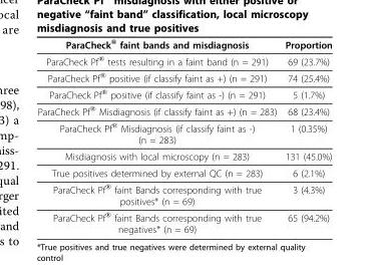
<table><thead><tr><td>ParaCheck<sup>®</sup> faint bands and misdiagnosis</td><td>Proportion</td></tr></thead><tbody><tr><td>ParaCheck Pf<sup>®</sup> tests resulting in a faint band (n = 291)</td><td>69 (23.7%)</td></tr><tr><td>ParaCheck Pf<sup>®</sup> positive (if classify faint as +) (n = 291)</td><td>74 (25.4%)</td></tr><tr><td>ParaCheck Pf<sup>®</sup> positive (if classify faint as -) (n = 291)</td><td>5 (1.7%)</td></tr><tr><td>ParaCheck Pf<sup>®</sup> Misdiagnosis (if classify faint as +) (n = 283)</td><td>68 (23.4%)</td></tr><tr><td>ParaCheck Pf<sup>®</sup> Misdiagnosis (if classify faint as -) (n = 283)</td><td>1 (0.35%)</td></tr><tr><td>Misdiagnosis with local microscopy (n = 283)</td><td>131 (45.0%)</td></tr><tr><td>True positives determined by external QC (n = 283)</td><td>6 (2.1%)</td></tr><tr><td>ParaCheck Pf<sup>®</sup> faint Bands corresponding with true positives* (n = 69)</td><td>3 (4.3%)</td></tr><tr><td>ParaCheck Pf<sup>®</sup> faint Bands corresponding with true negatives* (n = 69)</td><td>65 (94.2%)</td></tr></tbody></table>